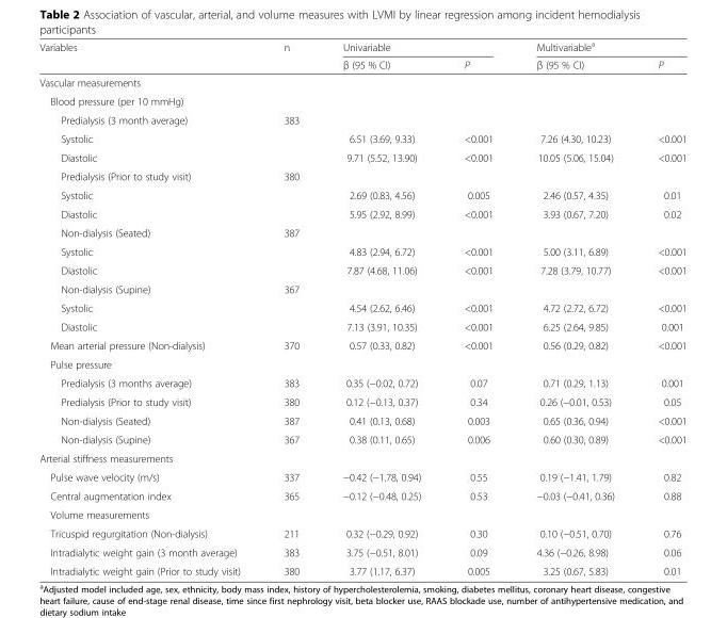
<table><thead><tr><td rowspan="2">Variables</td><td rowspan="2">n</td><td colspan="2">Univariable</td><td colspan="2">Multivariable<sup>a</sup></td></tr><tr><td>β (95 % CI)</td><td>P</td><td>β (95 % CI)</td><td>P</td></tr></thead><tbody><tr><td colspan="6">Vascular measurements</td></tr><tr><td colspan="6">Blood pressure (per 10 mmHg)</td></tr><tr><td>Predialysis (3 month average)</td><td>383</td><td></td><td></td><td></td><td></td></tr><tr><td>Systolic</td><td></td><td>6.51 (3.69, 9.33)</td><td>&lt;0.001</td><td>7.26 (4.30, 10.23)</td><td>&lt;0.001</td></tr><tr><td>Diastolic</td><td></td><td>9.71 (5.52, 13.90)</td><td>&lt;0.001</td><td>10.05 (5.06, 15.04)</td><td>&lt;0.001</td></tr><tr><td>Predialysis (Prior to study visit)</td><td>380</td><td></td><td></td><td></td><td></td></tr><tr><td>Systolic</td><td></td><td>2.69 (0.83, 4.56)</td><td>0.005</td><td>2.46 (0.57, 4.35)</td><td>0.01</td></tr><tr><td>Diastolic</td><td></td><td>5.95 (2.92, 8.99)</td><td>&lt;0.001</td><td>3.93 (0.67, 7.20)</td><td>0.02</td></tr><tr><td>Non-dialysis (Seated)</td><td>387</td><td></td><td></td><td></td><td></td></tr><tr><td>Systolic</td><td></td><td>4.83 (2.94, 6.72)</td><td>&lt;0.001</td><td>5.00 (3.11, 6.89)</td><td>&lt;0.001</td></tr><tr><td>Diastolic</td><td></td><td>7.87 (4.68, 11.06)</td><td>&lt;0.001</td><td>7.28 (3.79, 10.77)</td><td>&lt;0.001</td></tr><tr><td>Non-dialysis (Supine)</td><td>367</td><td></td><td></td><td></td><td></td></tr><tr><td>Systolic</td><td></td><td>4.54 (2.62, 6.46)</td><td>&lt;0.001</td><td>4.72 (2.72, 6.72)</td><td>&lt;0.001</td></tr><tr><td>Diastolic</td><td></td><td>7.13 (3.91, 10.35)</td><td>&lt;0.001</td><td>6.25 (2.64, 9.85)</td><td>0.001</td></tr><tr><td>Mean arterial pressure (Non-dialysis)</td><td>370</td><td>0.57 (0.33, 0.82)</td><td>&lt;0.001</td><td>0.56 (0.29, 0.82)</td><td>&lt;0.001</td></tr><tr><td colspan="6">Pulse pressure</td></tr><tr><td>Predialysis (3 months average)</td><td>383</td><td>0.35 (−0.02, 0.72)</td><td>0.07</td><td>0.71 (0.29, 1.13)</td><td>0.001</td></tr><tr><td>Predialysis (Prior to study visit)</td><td>380</td><td>0.12 (−0.13, 0.37)</td><td>0.34</td><td>0.26 (−0.01, 0.53)</td><td>0.05</td></tr><tr><td>Non-dialysis (Seated)</td><td>387</td><td>0.41 (0.13, 0.68)</td><td>0.003</td><td>0.65 (0.36, 0.94)</td><td>&lt;0.001</td></tr><tr><td>Non-dialysis (Supine)</td><td>367</td><td>0.38 (0.11, 0.65)</td><td>0.006</td><td>0.60 (0.30, 0.89)</td><td>&lt;0.001</td></tr><tr><td colspan="6">Arterial stiffness measurements</td></tr><tr><td>Pulse wave velocity (m/s)</td><td>337</td><td>−0.42 (−1.78, 0.94)</td><td>0.55</td><td>0.19 (−1.41, 1.79)</td><td>0.82</td></tr><tr><td>Central augmentation index</td><td>365</td><td>−0.12 (−0.48, 0.25)</td><td>0.53</td><td>−0.03 (−0.41, 0.36)</td><td>0.88</td></tr><tr><td colspan="6">Volume measurements</td></tr><tr><td>Tricuspid regurgitation (Non-dialysis)</td><td>211</td><td>0.32 (−0.29, 0.92)</td><td>0.30</td><td>0.10 (−0.51, 0.70)</td><td>0.76</td></tr><tr><td>Intradialytic weight gain (3 month average)</td><td>383</td><td>3.75 (−0.51, 8.01)</td><td>0.09</td><td>4.36 (−0.26, 8.98)</td><td>0.06</td></tr><tr><td>Intradialytic weight gain (Prior to study visit)</td><td>380</td><td>3.77 (1.17, 6.37)</td><td>0.005</td><td>3.25 (0.67, 5.83)</td><td>0.01</td></tr></tbody></table>